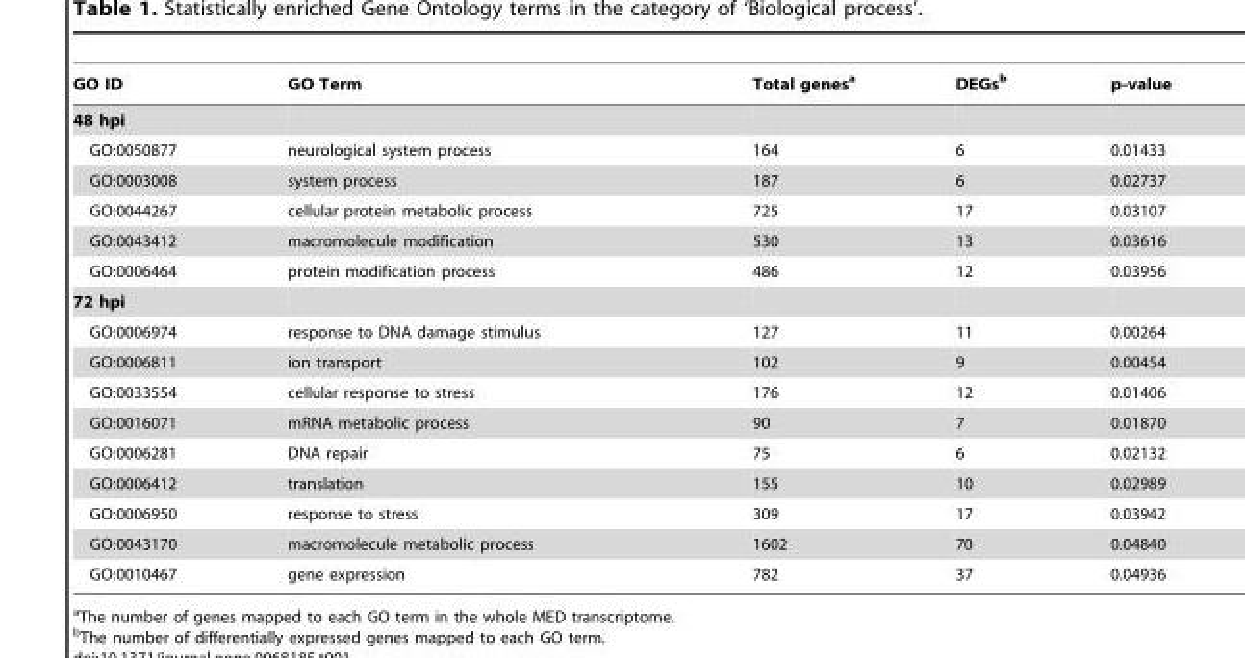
<table><thead><tr><td>GO ID</td><td>GO Term</td><td>Total genes<sup>a</sup></td><td>DEGs<sup>b</sup></td><td>p-value</td></tr></thead><tbody><tr><td colspan="5">48 hpi</td></tr><tr><td>GO:0050877</td><td>neurological system process</td><td>164</td><td>6</td><td>0.01433</td></tr><tr><td>GO:0003008</td><td>system process</td><td>187</td><td>6</td><td>0.02737</td></tr><tr><td>GO:0044267</td><td>cellular protein metabolic process</td><td>725</td><td>17</td><td>0.03107</td></tr><tr><td>GO:0043412</td><td>macromolecule modification</td><td>530</td><td>13</td><td>0.03616</td></tr><tr><td>GO:0006464</td><td>protein modification process</td><td>486</td><td>12</td><td>0.03956</td></tr><tr><td colspan="5">72 hpi</td></tr><tr><td>GO:0006974</td><td>response to DNA damage stimulus</td><td>127</td><td>11</td><td>0.00264</td></tr><tr><td>GO:0006811</td><td>ion transport</td><td>102</td><td>9</td><td>0.00454</td></tr><tr><td>GO:0033554</td><td>cellular response to stress</td><td>176</td><td>12</td><td>0.01406</td></tr><tr><td>GO:0016071</td><td>mRNA metabolic process</td><td>90</td><td>7</td><td>0.01870</td></tr><tr><td>GO:0006281</td><td>DNA repair</td><td>75</td><td>6</td><td>0.02132</td></tr><tr><td>GO:0006412</td><td>translation</td><td>155</td><td>10</td><td>0.02989</td></tr><tr><td>GO:0006950</td><td>response to stress</td><td>309</td><td>17</td><td>0.03942</td></tr><tr><td>GO:0043170</td><td>macromolecule metabolic process</td><td>1602</td><td>70</td><td>0.04840</td></tr><tr><td>GO:0010467</td><td>gene expression</td><td>782</td><td>37</td><td>0.04936</td></tr></tbody></table>